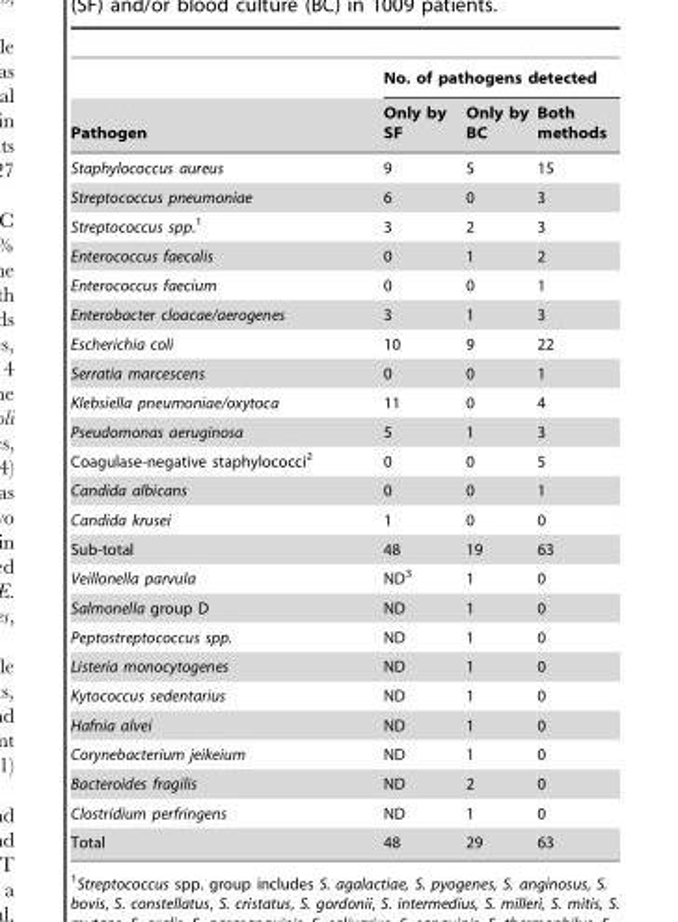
<table><thead><tr><td rowspan="2">Pathogen</td><td colspan="3">No. of pathogens detected</td></tr><tr><td>Only by SF</td><td>Only by BC</td><td>Both methods</td></tr></thead><tbody><tr><td>Staphylococcus aureus</td><td>9</td><td>5</td><td>15</td></tr><tr><td>Streptococcus pneumoniae</td><td>6</td><td>0</td><td>3</td></tr><tr><td>Streptococcus spp.1</td><td>3</td><td>2</td><td>3</td></tr><tr><td>Enterococcus faecalis</td><td>0</td><td>1</td><td>2</td></tr><tr><td>Enterococcus faecium</td><td>0</td><td>0</td><td>1</td></tr><tr><td>Enterobacter cloacae/aerogenes</td><td>3</td><td>1</td><td>3</td></tr><tr><td>Escherichia coli</td><td>10</td><td>9</td><td>22</td></tr><tr><td>Serratia marcescens</td><td>0</td><td>0</td><td>1</td></tr><tr><td>Klebsiella pneumoniae/oxytoca</td><td>11</td><td>0</td><td>4</td></tr><tr><td>Pseudomonas aeruginosa</td><td>5</td><td>1</td><td>3</td></tr><tr><td>Coagulase-negative staphylococci<sup>2</sup></td><td>0</td><td>0</td><td>5</td></tr><tr><td>Candida albicans</td><td>0</td><td>0</td><td>1</td></tr><tr><td>Candida krusei</td><td>1</td><td>0</td><td>0</td></tr><tr><td>Sub-total</td><td>48</td><td>19</td><td>63</td></tr><tr><td>Veillonella parvula</td><td>ND<sup>3</sup></td><td>1</td><td>0</td></tr><tr><td>Salmonella group D</td><td>ND</td><td>1</td><td>0</td></tr><tr><td>Peptostreptococcus spp.</td><td>ND</td><td>1</td><td>0</td></tr><tr><td>Listeria monocytogenes</td><td>ND</td><td>1</td><td>0</td></tr><tr><td>Kytococcus sedentarius</td><td>ND</td><td>1</td><td>0</td></tr><tr><td>Hafnia alvei</td><td>ND</td><td>1</td><td>0</td></tr><tr><td>Corynebacterium jeikeium</td><td>ND</td><td>1</td><td>0</td></tr><tr><td>Bacteroides fragilis</td><td>ND</td><td>2</td><td>0</td></tr><tr><td>Clostridium perfringens</td><td>ND</td><td>1</td><td>0</td></tr><tr><td>Total</td><td>48</td><td>29</td><td>63</td></tr></tbody></table>